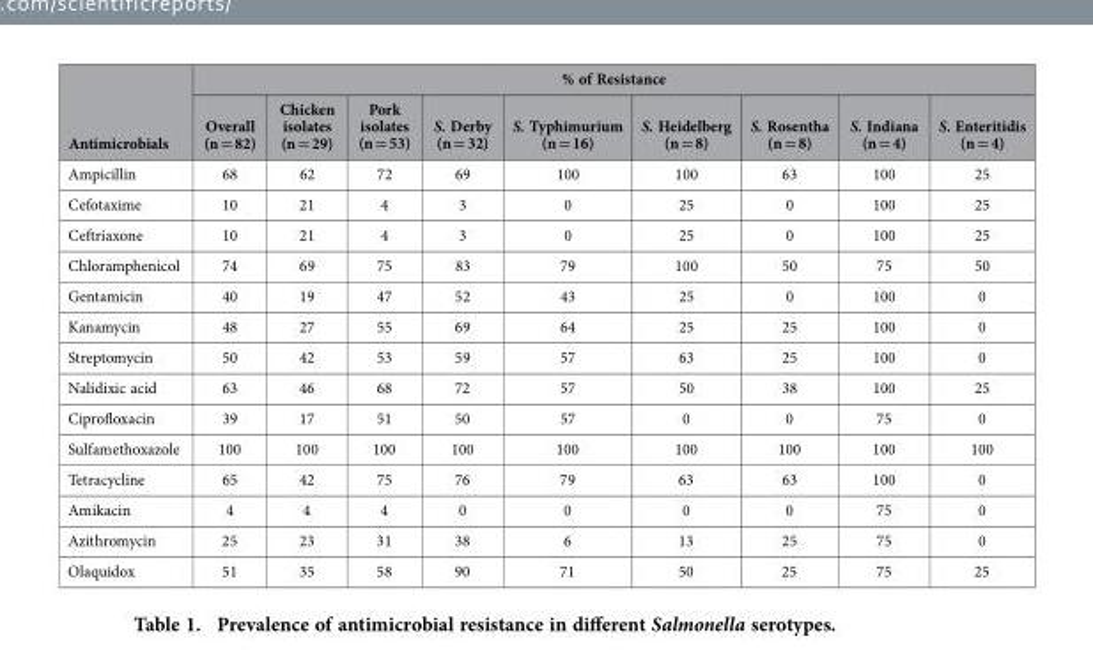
<table><thead><tr><td rowspan="2">Antimicrobials</td><td colspan="9">% of Resistance</td></tr><tr><td>Overall (n = 82)</td><td>Chicken isolates (n = 29)</td><td>Pork isolates (n = 53)</td><td>S. Derby (n = 32)</td><td>S. Typhimurium (n = 16)</td><td>S. Heidelberg (n = 8)</td><td>S. Rosentha (n = 8)</td><td>S. Indiana (n = 4)</td><td>S. Enteritidis (n = 4)</td></tr></thead><tbody><tr><td>Ampicillin</td><td>68</td><td>62</td><td>72</td><td>69</td><td>100</td><td>100</td><td>63</td><td>100</td><td>25</td></tr><tr><td>Cefotaxime</td><td>10</td><td>21</td><td>4</td><td>3</td><td>0</td><td>25</td><td>0</td><td>100</td><td>25</td></tr><tr><td>Ceftriaxone</td><td>10</td><td>21</td><td>4</td><td>3</td><td>0</td><td>25</td><td>0</td><td>100</td><td>25</td></tr><tr><td>Chloramphenicol</td><td>74</td><td>69</td><td>75</td><td>83</td><td>79</td><td>100</td><td>50</td><td>75</td><td>50</td></tr><tr><td>Gentamicin</td><td>40</td><td>19</td><td>47</td><td>52</td><td>43</td><td>25</td><td>0</td><td>100</td><td>0</td></tr><tr><td>Kanamycin</td><td>48</td><td>27</td><td>55</td><td>69</td><td>64</td><td>25</td><td>25</td><td>100</td><td>0</td></tr><tr><td>Streptomycin</td><td>50</td><td>42</td><td>53</td><td>59</td><td>57</td><td>63</td><td>25</td><td>100</td><td>0</td></tr><tr><td>Nalidixic acid</td><td>63</td><td>46</td><td>68</td><td>72</td><td>57</td><td>50</td><td>38</td><td>100</td><td>25</td></tr><tr><td>Ciprofloxacin</td><td>39</td><td>17</td><td>51</td><td>50</td><td>57</td><td>0</td><td>0</td><td>75</td><td>0</td></tr><tr><td>Sulfamethoxazole</td><td>100</td><td>100</td><td>100</td><td>100</td><td>100</td><td>100</td><td>100</td><td>100</td><td>100</td></tr><tr><td>Tetracycline</td><td>65</td><td>42</td><td>75</td><td>76</td><td>79</td><td>63</td><td>63</td><td>100</td><td>0</td></tr><tr><td>Amikacin</td><td>4</td><td>4</td><td>4</td><td>0</td><td>0</td><td>0</td><td>0</td><td>75</td><td>0</td></tr><tr><td>Azithromycin</td><td>25</td><td>23</td><td>31</td><td>38</td><td>6</td><td>13</td><td>25</td><td>75</td><td>0</td></tr><tr><td>Olaquidox</td><td>51</td><td>35</td><td>58</td><td>90</td><td>71</td><td>50</td><td>25</td><td>75</td><td>25</td></tr></tbody></table>